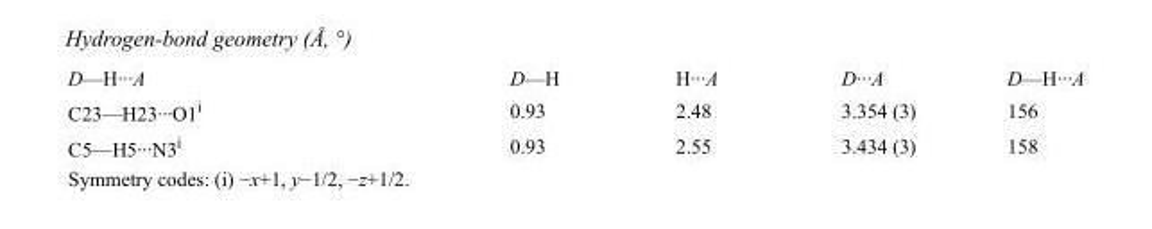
<table><tbody><tr><td>D—H···A</td><td>D—H</td><td>H···A</td><td>D···A</td><td>D—H···A</td></tr><tr><td>C23—H23···O1<sup>i</sup></td><td>0.93</td><td>2.48</td><td>3.354 (3)</td><td>156</td></tr><tr><td>C5—H5···N3<sup>i</sup></td><td>0.93</td><td>2.55</td><td>3.434 (3)</td><td>158</td></tr></tbody></table>